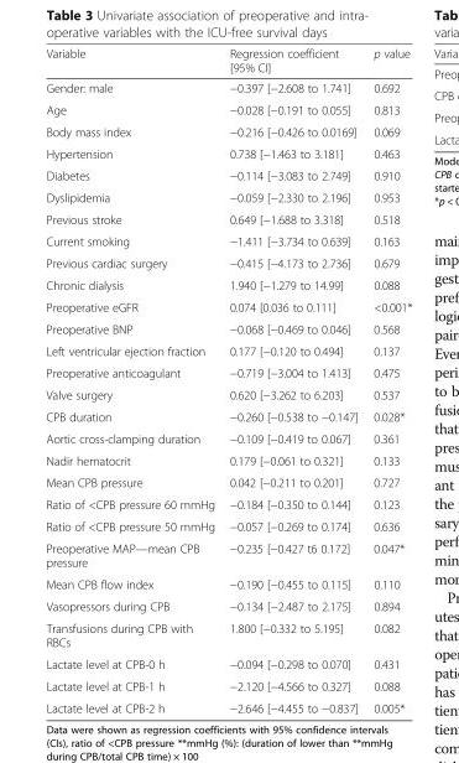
<table><thead><tr><td>Variable</td><td>Regression coefficient [95% CI]</td><td>p value</td></tr></thead><tbody><tr><td>Gender: male</td><td>−0.397 [−2.608 to 1.741]</td><td>0.692</td></tr><tr><td>Age</td><td>−0.028 [−0.191 to 0.055]</td><td>0.813</td></tr><tr><td>Body mass index</td><td>−0.216 [−0.426 to 0.0169]</td><td>0.069</td></tr><tr><td>Hypertension</td><td>0.738 [−1.463 to 3.181]</td><td>0.463</td></tr><tr><td>Diabetes</td><td>−0.114 [−3.083 to 2.749]</td><td>0.910</td></tr><tr><td>Dyslipidemia</td><td>−0.059 [−2.330 to 2.196]</td><td>0.953</td></tr><tr><td>Previous stroke</td><td>0.649 [−1.688 to 3.318]</td><td>0.518</td></tr><tr><td>Current smoking</td><td>−1.411 [−3.734 to 0.639]</td><td>0.163</td></tr><tr><td>Previous cardiac surgery</td><td>−0.415 [−4.173 to 2.736]</td><td>0.679</td></tr><tr><td>Chronic dialysis</td><td>1.940 [−1.279 to 14.99]</td><td>0.088</td></tr><tr><td>Preoperative eGFR</td><td>0.074 [0.036 to 0.111]</td><td>&lt;0.001*</td></tr><tr><td>Preoperative BNP</td><td>−0.068 [−0.469 to 0.046]</td><td>0.568</td></tr><tr><td>Left ventricular ejection fraction</td><td>0.177 [−0.120 to 0.494]</td><td>0.137</td></tr><tr><td>Preoperative anticoagulant</td><td>−0.719 [−3.004 to 1.413]</td><td>0.475</td></tr><tr><td>Valve surgery</td><td>0.620 [−3.262 to 6.203]</td><td>0.537</td></tr><tr><td>CPB duration</td><td>−0.260 [−0.538 to −0.147]</td><td>0.028*</td></tr><tr><td>Aortic cross-clamping duration</td><td>−0.109 [−0.419 to 0.067]</td><td>0.361</td></tr><tr><td>Nadir hematocrit</td><td>0.179 [−0.061 to 0.321]</td><td>0.133</td></tr><tr><td>Mean CPB pressure</td><td>0.042 [−0.211 to 0.201]</td><td>0.727</td></tr><tr><td>Ratio of &lt;CPB pressure 60 mmHg</td><td>−0.184 [−0.350 to 0.144]</td><td>0.123</td></tr><tr><td>Ratio of &lt;CPB pressure 50 mmHg</td><td>−0.057 [−0.269 to 0.174]</td><td>0.636</td></tr><tr><td>Preoperative MAP—mean CPB pressure</td><td>−0.235 [−0.427 t6 0.172]</td><td>0.047*</td></tr><tr><td>Mean CPB flow index</td><td>−0.190 [−0.455 to 0.115]</td><td>0.110</td></tr><tr><td>Vasopressors during CPB</td><td>−0.134 [−2.487 to 2.175]</td><td>0.894</td></tr><tr><td>Transfusions during CPB with RBCs</td><td>1.800 [−0.332 to 5.195]</td><td>0.082</td></tr><tr><td>Lactate level at CPB-0 h</td><td>−0.094 [−0.298 to 0.070]</td><td>0.431</td></tr><tr><td>Lactate level at CPB-1 h</td><td>−2.120 [−4.566 to 0.327]</td><td>0.088</td></tr><tr><td>Lactate level at CPB-2 h</td><td>−2.646 [−4.455 to −0.837]</td><td>0.005*</td></tr></tbody></table>